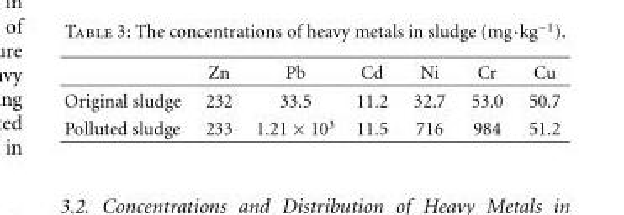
<table><thead><tr><td></td><td>Zn</td><td>Pb</td><td>Cd</td><td>Ni</td><td>Cr</td><td>Cu</td></tr></thead><tbody><tr><td>Original sludge</td><td>232</td><td>33.5</td><td>11.2</td><td>32.7</td><td>53.0</td><td>50.7</td></tr><tr><td>Polluted sludge</td><td>233</td><td>1.21 × 10<sup>3</sup></td><td>11.5</td><td>716</td><td>984</td><td>51.2</td></tr></tbody></table>